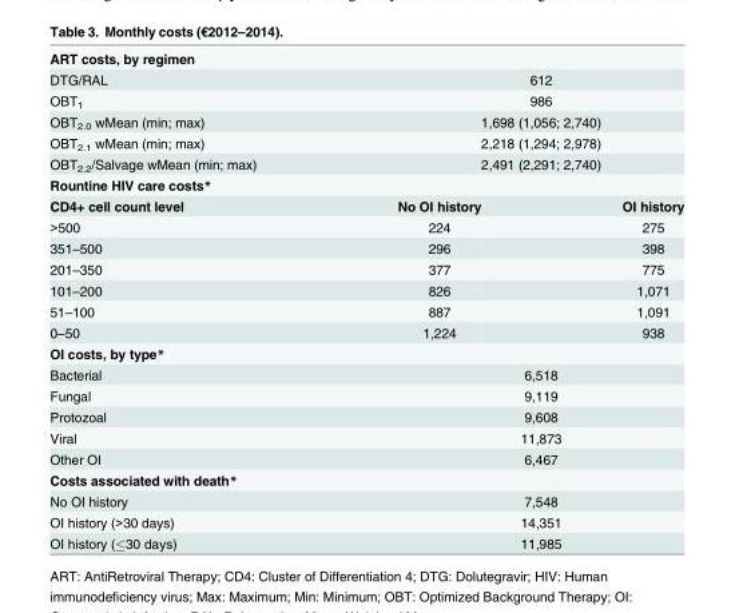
<table><tbody><tr><td colspan="3">ART costs, by regimen</td></tr><tr><td>DTG/RAL</td><td colspan="2">612</td></tr><tr><td>OBT<sub>1</sub></td><td colspan="2">986</td></tr><tr><td>OBT<sub>2.0</sub> wMean (min; max)</td><td colspan="2">1,698 (1,056; 2,740)</td></tr><tr><td>OBT<sub>2.1</sub> wMean (min; max)</td><td colspan="2">2,218 (1,294; 2,978)</td></tr><tr><td>OBT<sub>2.2</sub>/Salvage wMean (min; max)</td><td colspan="2">2,491 (2,291; 2,740)</td></tr><tr><td colspan="3">Rountine HIV care costs*</td></tr><tr><td>CD4+ cell count level</td><td>No OI history</td><td>OI history</td></tr><tr><td>&gt;500</td><td>224</td><td>275</td></tr><tr><td>351–500</td><td>296</td><td>398</td></tr><tr><td>201–350</td><td>377</td><td>775</td></tr><tr><td>101–200</td><td>826</td><td>1,071</td></tr><tr><td>51–100</td><td>887</td><td>1,091</td></tr><tr><td>0–50</td><td>1,224</td><td>938</td></tr><tr><td colspan="3">OI costs, by type*</td></tr><tr><td>Bacterial</td><td colspan="2">6,518</td></tr><tr><td>Fungal</td><td colspan="2">9,119</td></tr><tr><td>Protozoal</td><td colspan="2">9,608</td></tr><tr><td>Viral</td><td colspan="2">11,873</td></tr><tr><td>Other OI</td><td colspan="2">6,467</td></tr><tr><td colspan="3">Costs associated with death*</td></tr><tr><td>No OI history</td><td colspan="2">7,548</td></tr><tr><td>OI history (&gt;30 days)</td><td colspan="2">14,351</td></tr><tr><td>OI history (≤30 days)</td><td colspan="2">11,985</td></tr></tbody></table>